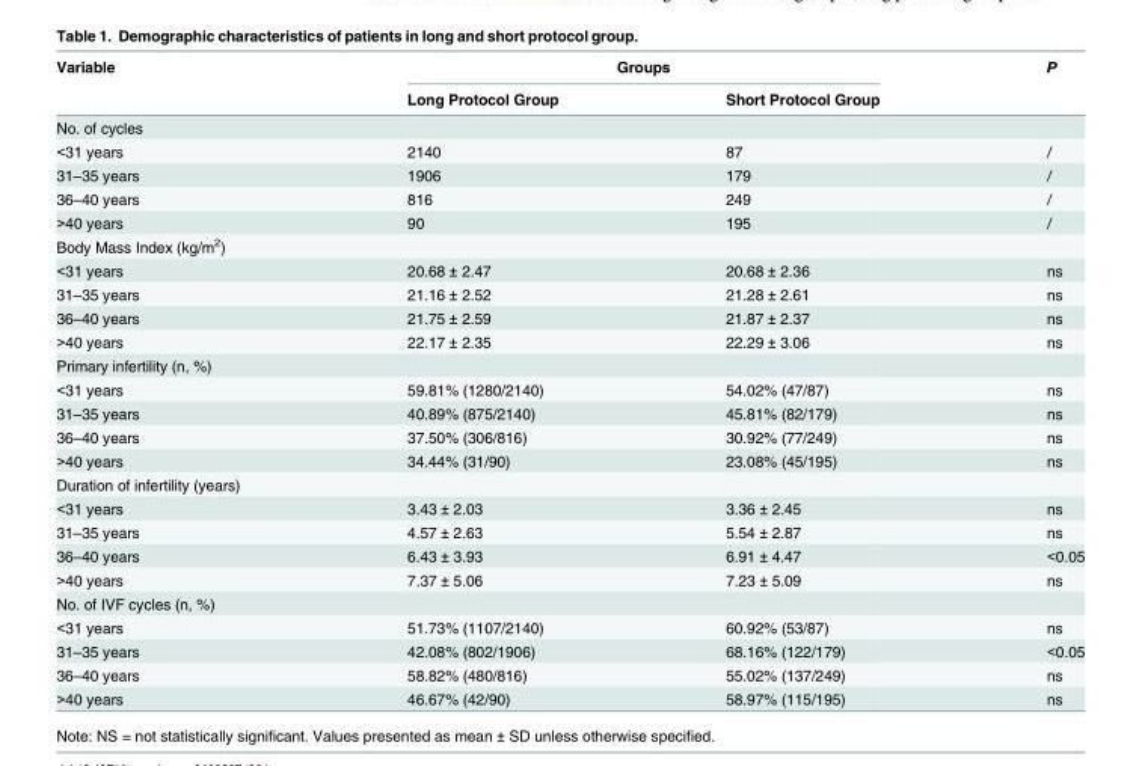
<table><thead><tr><td rowspan="2">Variable</td><td colspan="2">Groups</td><td rowspan="2">P</td></tr><tr><td>Long Protocol Group</td><td>Short Protocol Group</td></tr></thead><tbody><tr><td colspan="4">No. of cycles</td></tr><tr><td>&lt;31 years</td><td>2140</td><td>87</td><td>/</td></tr><tr><td>31–35 years</td><td>1906</td><td>179</td><td>/</td></tr><tr><td>36–40 years</td><td>816</td><td>249</td><td>/</td></tr><tr><td>&gt;40 years</td><td>90</td><td>195</td><td>/</td></tr><tr><td colspan="4">Body Mass Index (kg/m<sup>2</sup>)</td></tr><tr><td>&lt;31 years</td><td>20.68 ± 2.47</td><td>20.68 ± 2.36</td><td>ns</td></tr><tr><td>31–35 years</td><td>21.16 ± 2.52</td><td>21.28 ± 2.61</td><td>ns</td></tr><tr><td>36–40 years</td><td>21.75 ± 2.59</td><td>21.87 ± 2.37</td><td>ns</td></tr><tr><td>&gt;40 years</td><td>22.17 ± 2.35</td><td>22.29 ± 3.06</td><td>ns</td></tr><tr><td colspan="4">Primary infertility (n, %)</td></tr><tr><td>&lt;31 years</td><td>59.81% (1280/2140)</td><td>54.02% (47/87)</td><td>ns</td></tr><tr><td>31–35 years</td><td>40.89% (875/2140)</td><td>45.81% (82/179)</td><td>ns</td></tr><tr><td>36–40 years</td><td>37.50% (306/816)</td><td>30.92% (77/249)</td><td>ns</td></tr><tr><td>&gt;40 years</td><td>34.44% (31/90)</td><td>23.08% (45/195)</td><td>ns</td></tr><tr><td colspan="4">Duration of infertility (years)</td></tr><tr><td>&lt;31 years</td><td>3.43 ± 2.03</td><td>3.36 ± 2.45</td><td>ns</td></tr><tr><td>31–35 years</td><td>4.57 ± 2.63</td><td>5.54 ± 2.87</td><td>ns</td></tr><tr><td>36–40 years</td><td>6.43 ± 3.93</td><td>6.91 ± 4.47</td><td>&lt;0.05</td></tr><tr><td>&gt;40 years</td><td>7.37 ± 5.06</td><td>7.23 ± 5.09</td><td>ns</td></tr><tr><td colspan="4">No. of IVF cycles (n, %)</td></tr><tr><td>&lt;31 years</td><td>51.73% (1107/2140)</td><td>60.92% (53/87)</td><td>ns</td></tr><tr><td>31–35 years</td><td>42.08% (802/1906)</td><td>68.16% (122/179)</td><td>&lt;0.05</td></tr><tr><td>36–40 years</td><td>58.82% (480/816)</td><td>55.02% (137/249)</td><td>ns</td></tr><tr><td>&gt;40 years</td><td>46.67% (42/90)</td><td>58.97% (115/195)</td><td>ns</td></tr></tbody></table>